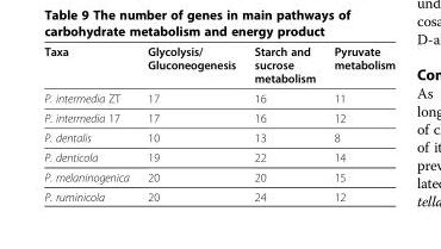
<table><thead><tr><td>Taxa</td><td>Glycolysis/ Gluconeogenesis</td><td>Starch and sucrose metabolism</td><td>Pyruvate metabolism</td></tr></thead><tbody><tr><td>P. intermedia ZT</td><td>17</td><td>16</td><td>11</td></tr><tr><td>P. intermedia 17</td><td>17</td><td>16</td><td>12</td></tr><tr><td>P. dentalis</td><td>10</td><td>13</td><td>8</td></tr><tr><td>P. denticola</td><td>19</td><td>22</td><td>14</td></tr><tr><td>P. melaninogenica</td><td>20</td><td>20</td><td>15</td></tr><tr><td>P. ruminicola</td><td>20</td><td>24</td><td>12</td></tr></tbody></table>